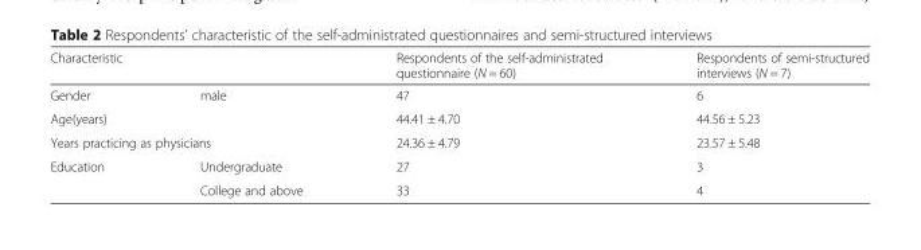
<table><thead><tr><td colspan="2">Characteristic</td><td rowspan="2">Respondents of the self-administrated questionnaire (N = 60) 47</td><td rowspan="2">Respondents of semi-structured interviews (N = 7) 6</td></tr><tr><td>Gender</td><td>male</td></tr></thead><tbody><tr><td>Age(years)</td><td></td><td>44.41 ± 4.70</td><td>44.56 ± 5.23</td></tr><tr><td colspan="2">Years practicing as physicians</td><td>24.36 ± 4.79</td><td>23.57 ± 5.48</td></tr><tr><td rowspan="2">Education</td><td>Undergraduate</td><td>27</td><td>3</td></tr><tr><td>College and above</td><td>33</td><td>4</td></tr></tbody></table>